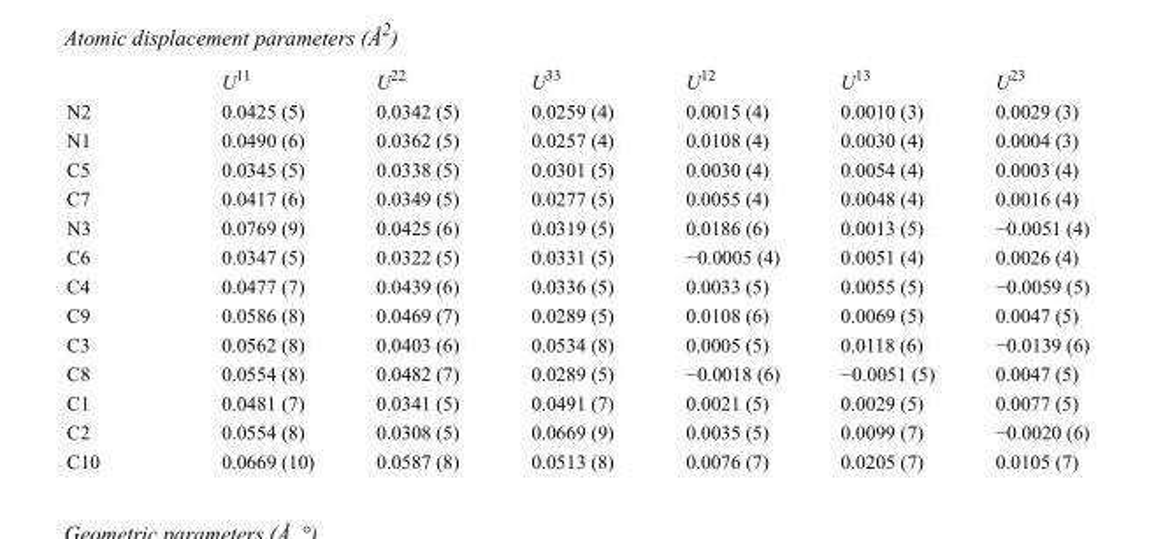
<table><thead><tr><td></td><td>U<sup>11</sup></td><td>U<sup>22</sup></td><td>U<sup>33</sup></td><td>U<sup>12</sup></td><td>U<sup>13</sup></td><td>U<sup>23</sup></td></tr></thead><tbody><tr><td>N2</td><td>0.0425 (5)</td><td>0.0342 (5)</td><td>0.0259 (4)</td><td>0.0015 (4)</td><td>0.0010 (3)</td><td>0.0029 (3)</td></tr><tr><td>N1</td><td>0.0490 (6)</td><td>0.0362 (5)</td><td>0.0257 (4)</td><td>0.0108 (4)</td><td>0.0030 (4)</td><td>0.0004 (3)</td></tr><tr><td>C5</td><td>0.0345 (5)</td><td>0.0338 (5)</td><td>0.0301 (5)</td><td>0.0030 (4)</td><td>0.0054 (4)</td><td>0.0003 (4)</td></tr><tr><td>C7</td><td>0.0417 (6)</td><td>0.0349 (5)</td><td>0.0277 (5)</td><td>0.0055 (4)</td><td>0.0048 (4)</td><td>0.0016 (4)</td></tr><tr><td>N3</td><td>0.0769 (9)</td><td>0.0425 (6)</td><td>0.0319 (5)</td><td>0.0186 (6)</td><td>0.0013 (5)</td><td>−0.0051 (4)</td></tr><tr><td>C6</td><td>0.0347 (5)</td><td>0.0322 (5)</td><td>0.0331 (5)</td><td>−0.0005 (4)</td><td>0.0051 (4)</td><td>0.0026 (4)</td></tr><tr><td>C4</td><td>0.0477 (7)</td><td>0.0439 (6)</td><td>0.0336 (5)</td><td>0.0033 (5)</td><td>0.0055 (5)</td><td>−0.0059 (5)</td></tr><tr><td>C9</td><td>0.0586 (8)</td><td>0.0469 (7)</td><td>0.0289 (5)</td><td>0.0108 (6)</td><td>0.0069 (5)</td><td>0.0047 (5)</td></tr><tr><td>C3</td><td>0.0562 (8)</td><td>0.0403 (6)</td><td>0.0534 (8)</td><td>0.0005 (5)</td><td>0.0118 (6)</td><td>−0.0139 (6)</td></tr><tr><td>C8</td><td>0.0554 (8)</td><td>0.0482 (7)</td><td>0.0289 (5)</td><td>−0.0018 (6)</td><td>−0.0051 (5)</td><td>0.0047 (5)</td></tr><tr><td>C1</td><td>0.0481 (7)</td><td>0.0341 (5)</td><td>0.0491 (7)</td><td>0.0021 (5)</td><td>0.0029 (5)</td><td>0.0077 (5)</td></tr><tr><td>C2</td><td>0.0554 (8)</td><td>0.0308 (5)</td><td>0.0669 (9)</td><td>0.0035 (5)</td><td>0.0099 (7)</td><td>−0.0020 (6)</td></tr><tr><td>C10</td><td>0.0669 (10)</td><td>0.0587 (8)</td><td>0.0513 (8)</td><td>0.0076 (7)</td><td>0.0205 (7)</td><td>0.0105 (7)</td></tr></tbody></table>